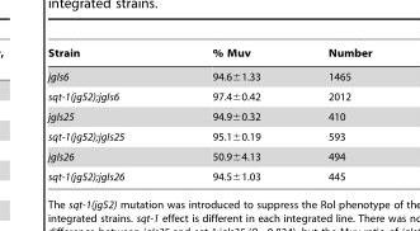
<table><thead><tr><td>Strain</td><td>% Muv</td><td>Number</td></tr></thead><tbody><tr><td>jgIs6</td><td>94.6±1.33</td><td>1465</td></tr><tr><td>sqt-1(jg52);jgIs6</td><td>97.4±0.42</td><td>2012</td></tr><tr><td>jgIs25</td><td>94.9±0.32</td><td>410</td></tr><tr><td>sqt-1(jg52);jgIs25</td><td>95.1±0.19</td><td>593</td></tr><tr><td>jgIs26</td><td>50.9±4.13</td><td>494</td></tr><tr><td>sqt-1(jg52);jgIs26</td><td>94.5±1.03</td><td>445</td></tr></tbody></table>